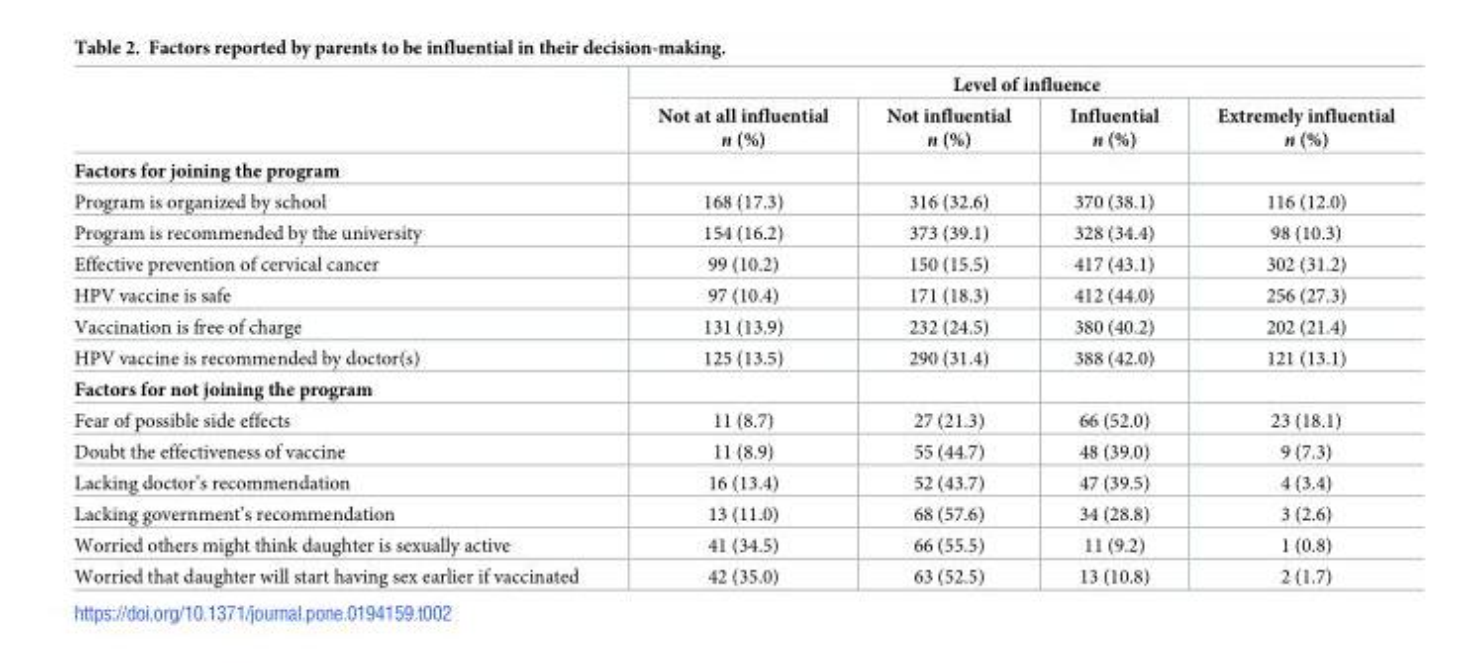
<table><thead><tr><td rowspan="2"></td><td colspan="4">Level of influence</td></tr><tr><td>Not at all influential n (%)</td><td>Not influential n (%)</td><td>Influential n (%)</td><td>Extremely influential n (%)</td></tr></thead><tbody><tr><td colspan="5">Factors for joining the program</td></tr><tr><td>Program is organized by school</td><td>168 (17.3)</td><td>316 (32.6)</td><td>370 (38.1)</td><td>116 (12.0)</td></tr><tr><td>Program is recommended by the university</td><td>154 (16.2)</td><td>373 (39.1)</td><td>328 (34.4)</td><td>98 (10.3)</td></tr><tr><td>Effective prevention of cervical cancer</td><td>99 (10.2)</td><td>150 (15.5)</td><td>417 (43.1)</td><td>302 (31.2)</td></tr><tr><td>HPV vaccine is safe</td><td>97 (10.4)</td><td>171 (18.3)</td><td>412 (44.0)</td><td>256 (27.3)</td></tr><tr><td>Vaccination is free of charge</td><td>131 (13.9)</td><td>232 (24.5)</td><td>380 (40.2)</td><td>202 (21.4)</td></tr><tr><td>HPV vaccine is recommended by doctor(s)</td><td>125 (13.5)</td><td>290 (31.4)</td><td>388 (42.0)</td><td>121 (13.1)</td></tr><tr><td colspan="5">Factors for not joining the program</td></tr><tr><td>Fear of possible side effects</td><td>11 (8.7)</td><td>27 (21.3)</td><td>66 (52.0)</td><td>23 (18.1)</td></tr><tr><td>Doubt the effectiveness of vaccine</td><td>11 (8.9)</td><td>55 (44.7)</td><td>48 (39.0)</td><td>9 (7.3)</td></tr><tr><td>Lacking doctor’s recommendation</td><td>16 (13.4)</td><td>52 (43.7)</td><td>47 (39.5)</td><td>4 (3.4)</td></tr><tr><td>Lacking government’s recommendation</td><td>13 (11.0)</td><td>68 (57.6)</td><td>34 (28.8)</td><td>3 (2.6)</td></tr><tr><td>Worried others might think daughter is sexually active</td><td>41 (34.5)</td><td>66 (55.5)</td><td>11 (9.2)</td><td>1 (0.8)</td></tr><tr><td>Worried that daughter will start having sex earlier if vaccinated</td><td>42 (35.0)</td><td>63 (52.5)</td><td>13 (10.8)</td><td>2 (1.7)</td></tr></tbody></table>